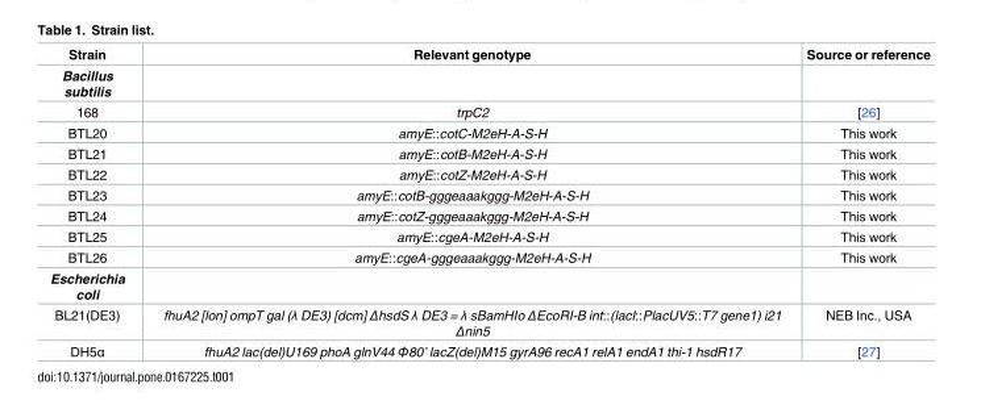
<table><thead><tr><td>Strain</td><td>Relevant genotype</td><td>Source or reference</td></tr></thead><tbody><tr><td colspan="3">Bacillus subtilis</td></tr><tr><td>168</td><td>trpC2</td><td>[26]</td></tr><tr><td>BTL20</td><td>amyE::cotC-M2eH-A-S-H</td><td>This work</td></tr><tr><td>BTL21</td><td>amyE::cotB-M2eH-A-S-H</td><td>This work</td></tr><tr><td>BTL22</td><td>amyE::cotZ-M2eH-A-S-H</td><td>This work</td></tr><tr><td>BTL23</td><td>amyE::cotB-gggeaaakggg-M2eH-A-S-H</td><td>This work</td></tr><tr><td>BTL24</td><td>amyE::cotZ-gggeaaakggg-M2eH-A-S-H</td><td>This work</td></tr><tr><td>BTL25</td><td>amyE::cgeA-M2eH-A-S-H</td><td>This work</td></tr><tr><td>BTL26</td><td>amyE::cgeA-gggeaaakggg-M2eH-A-S-H</td><td>This work</td></tr><tr><td colspan="3">Escherichia coli</td></tr><tr><td>BL21(DE3)</td><td>fhuA2 [lon] ompT gal (λ DE3) [dcm] ΔhsdS λ DE3 = λ sBamHIo ΔEcoRI-B int::(lacI::PlacUV5::T7 gene1) i21 Δnin5</td><td>NEB Inc., USA</td></tr><tr><td>DH5α</td><td>fhuA2 lac(del)U169 phoA glnV44 Φ80’ lacZ(del)M15 gyrA96 recA1 relA1 endA1 thi-1 hsdR17</td><td>[27]</td></tr></tbody></table>